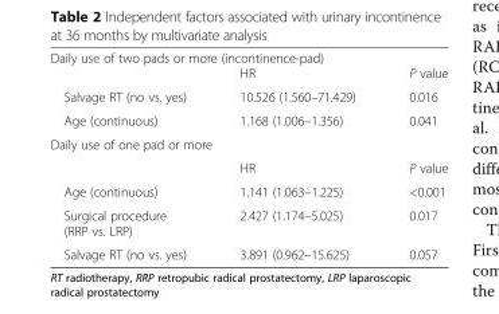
<table><thead><tr><td colspan="3">Daily use of two pads or more (incontinence-pad)</td></tr><tr><td></td><td>HR</td><td>P value</td></tr></thead><tbody><tr><td>Salvage RT (no vs. yes)</td><td>10.526 (1.560–71.429)</td><td>0.016</td></tr><tr><td>Age (continuous)</td><td>1.168 (1.006–1.356)</td><td>0.041</td></tr><tr><td colspan="3">Daily use of one pad or more</td></tr><tr><td></td><td>HR</td><td>P value</td></tr><tr><td>Age (continuous)</td><td>1.141 (1.063–1.225)</td><td>&lt;0.001</td></tr><tr><td>Surgical procedure (RRP vs. LRP)</td><td>2.427 (1.174–5.025)</td><td>0.017</td></tr><tr><td>Salvage RT (no vs. yes)</td><td>3.891 (0.962–15.625)</td><td>0.057</td></tr></tbody></table>